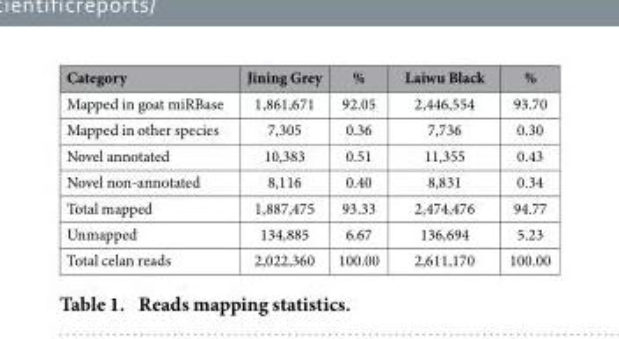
<table><thead><tr><td>Category</td><td>Jining Grey</td><td>%</td><td>Laiwu Black</td><td>%</td></tr></thead><tbody><tr><td>Mapped in goat miRBase</td><td>1,861,671</td><td>92.05</td><td>2,446,554</td><td>93.70</td></tr><tr><td>Mapped in other species</td><td>7,305</td><td>0.36</td><td>7,736</td><td>0.30</td></tr><tr><td>Novel annotated</td><td>10,383</td><td>0.51</td><td>11,355</td><td>0.43</td></tr><tr><td>Novel non-annotated</td><td>8,116</td><td>0.40</td><td>8,831</td><td>0.34</td></tr><tr><td>Total mapped</td><td>1,887,475</td><td>93.33</td><td>2,474,476</td><td>94.77</td></tr><tr><td>Unmapped</td><td>134,885</td><td>6.67</td><td>136,694</td><td>5.23</td></tr><tr><td>Total celan reads</td><td>2,022,360</td><td>100.00</td><td>2,611,170</td><td>100.00</td></tr></tbody></table>